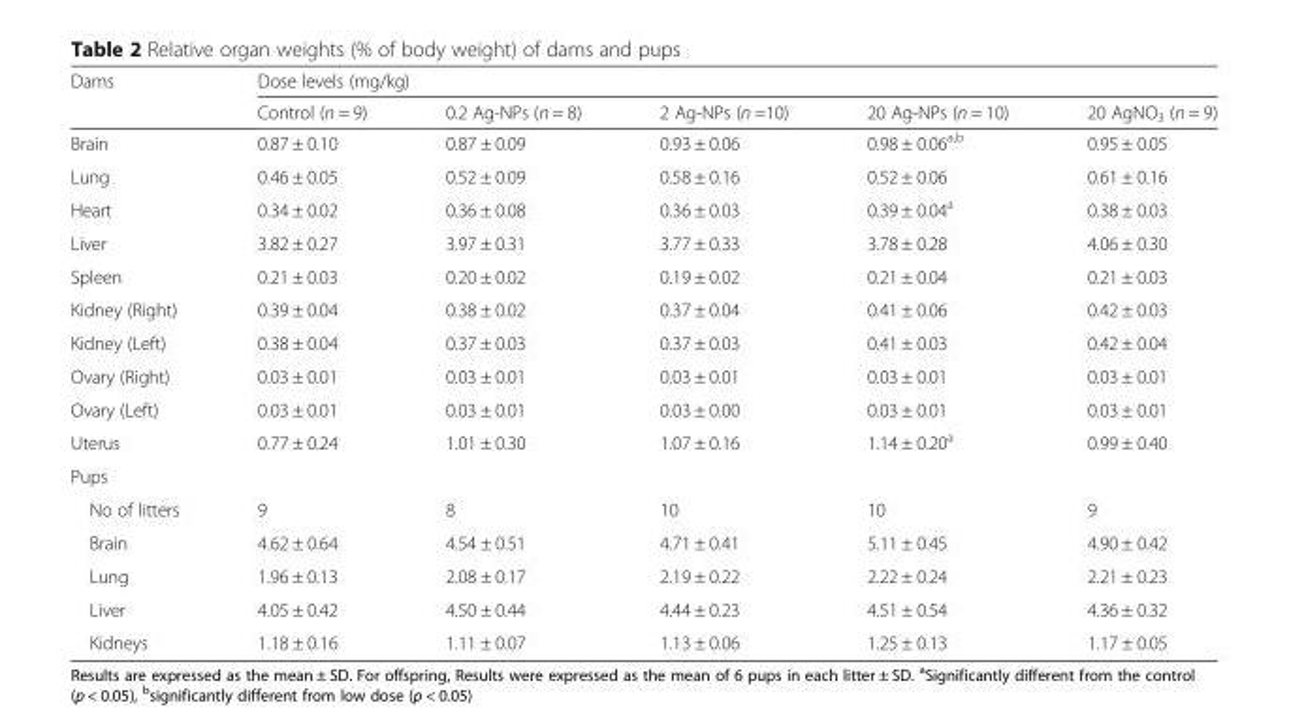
<table><thead><tr><td rowspan="2">Dams</td><td colspan="5">Dose levels (mg/kg)</td></tr><tr><td>Control (n = 9)</td><td>0.2 Ag-NPs (n = 8)</td><td>2 Ag-NPs (n =10)</td><td>20 Ag-NPs (n = 10)</td><td>20 AgNO<sub>3</sub> (n = 9)</td></tr></thead><tbody><tr><td>Brain</td><td>0.87 ± 0.10</td><td>0.87 ± 0.09</td><td>0.93 ± 0.06</td><td>0.98 ± 0.06<sup>a,b</sup></td><td>0.95 ± 0.05</td></tr><tr><td>Lung</td><td>0.46 ± 0.05</td><td>0.52 ± 0.09</td><td>0.58 ± 0.16</td><td>0.52 ± 0.06</td><td>0.61 ± 0.16</td></tr><tr><td>Heart</td><td>0.34 ± 0.02</td><td>0.36 ± 0.08</td><td>0.36 ± 0.03</td><td>0.39 ± 0.04<sup>a</sup></td><td>0.38 ± 0.03</td></tr><tr><td>Liver</td><td>3.82 ± 0.27</td><td>3.97 ± 0.31</td><td>3.77 ± 0.33</td><td>3.78 ± 0.28</td><td>4.06 ± 0.30</td></tr><tr><td>Spleen</td><td>0.21 ± 0.03</td><td>0.20 ± 0.02</td><td>0.19 ± 0.02</td><td>0.21 ± 0.04</td><td>0.21 ± 0.03</td></tr><tr><td>Kidney (Right)</td><td>0.39 ± 0.04</td><td>0.38 ± 0.02</td><td>0.37 ± 0.04</td><td>0.41 ± 0.06</td><td>0.42 ± 0.03</td></tr><tr><td>Kidney (Left)</td><td>0.38 ± 0.04</td><td>0.37 ± 0.03</td><td>0.37 ± 0.03</td><td>0.41 ± 0.03</td><td>0.42 ± 0.04</td></tr><tr><td>Ovary (Right)</td><td>0.03 ± 0.01</td><td>0.03 ± 0.01</td><td>0.03 ± 0.01</td><td>0.03 ± 0.01</td><td>0.03 ± 0.01</td></tr><tr><td>Ovary (Left)</td><td>0.03 ± 0.01</td><td>0.03 ± 0.01</td><td>0.03 ± 0.00</td><td>0.03 ± 0.01</td><td>0.03 ± 0.01</td></tr><tr><td>Uterus</td><td>0.77 ± 0.24</td><td>1.01 ± 0.30</td><td>1.07 ± 0.16</td><td>1.14 ± 0.20<sup>a</sup></td><td>0.99 ± 0.40</td></tr><tr><td colspan="6">Pups</td></tr><tr><td>No of litters</td><td>9</td><td>8</td><td>10</td><td>10</td><td>9</td></tr><tr><td>Brain</td><td>4.62 ± 0.64</td><td>4.54 ± 0.51</td><td>4.71 ± 0.41</td><td>5.11 ± 0.45</td><td>4.90 ± 0.42</td></tr><tr><td>Lung</td><td>1.96 ± 0.13</td><td>2.08 ± 0.17</td><td>2.19 ± 0.22</td><td>2.22 ± 0.24</td><td>2.21 ± 0.23</td></tr><tr><td>Liver</td><td>4.05 ± 0.42</td><td>4.50 ± 0.44</td><td>4.44 ± 0.23</td><td>4.51 ± 0.54</td><td>4.36 ± 0.32</td></tr><tr><td>Kidneys</td><td>1.18 ± 0.16</td><td>1.11 ± 0.07</td><td>1.13 ± 0.06</td><td>1.25 ± 0.13</td><td>1.17 ± 0.05</td></tr></tbody></table>